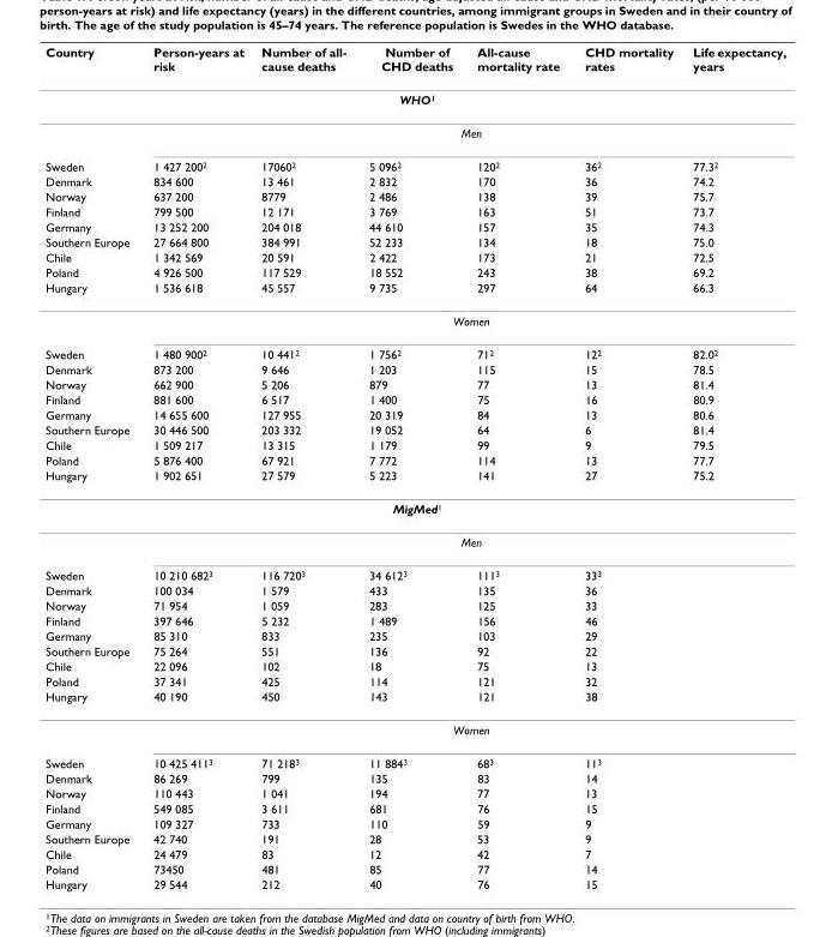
<table><thead><tr><td>Country</td><td>Person-years at risk</td><td>Number of all- cause deaths</td><td>Number of CHD deaths</td><td>All-cause mortality rate</td><td>CHD mortality rates</td><td>Life expectancy, years</td></tr></thead><tbody><tr><td colspan="7">WHO1</td></tr><tr><td></td><td colspan="6">Men</td></tr><tr><td>Sweden</td><td>1 427 2002</td><td>170602</td><td>5 0962</td><td>1202</td><td>362</td><td>77.32</td></tr><tr><td>Denmark</td><td>834 600</td><td>13 461</td><td>2 832</td><td>170</td><td>36</td><td>74.2</td></tr><tr><td>Norway</td><td>637 200</td><td>8779</td><td>2 486</td><td>138</td><td>39</td><td>75.7</td></tr><tr><td>Finland</td><td>799 500</td><td>12 171</td><td>3 769</td><td>163</td><td>51</td><td>73.7</td></tr><tr><td>Germany</td><td>13 252 200</td><td>204 018</td><td>44 610</td><td>157</td><td>35</td><td>74.3</td></tr><tr><td>Southern Europe</td><td>27 664 800</td><td>384 991</td><td>52 233</td><td>134</td><td>18</td><td>75.0</td></tr><tr><td>Chile</td><td>1 342 569</td><td>20 591</td><td>2 422</td><td>173</td><td>21</td><td>72.5</td></tr><tr><td>Poland</td><td>4 926 500</td><td>117 529</td><td>18 552</td><td>243</td><td>38</td><td>69.2</td></tr><tr><td rowspan="2">Hungary</td><td>1 536 618</td><td>45 557</td><td>9 735</td><td>297</td><td>64</td><td>66.3</td></tr><tr><td colspan="6">Women</td></tr><tr><td>Sweden</td><td>1 480 9002</td><td>10 4412</td><td>1 7562</td><td>712</td><td>122</td><td>82.02</td></tr><tr><td>Denmark</td><td>873 200</td><td>9 646</td><td>1 203</td><td>115</td><td>15</td><td>78.5</td></tr><tr><td>Norway</td><td>662 900</td><td>5 206</td><td>879</td><td>77</td><td>13</td><td>81.4</td></tr><tr><td>Finland</td><td>881 600</td><td>6 517</td><td>1 400</td><td>75</td><td>16</td><td>80.9</td></tr><tr><td>Germany</td><td>14 655 600</td><td>127 955</td><td>20 319</td><td>84</td><td>13</td><td>80.6</td></tr><tr><td>Southern Europe</td><td>30 446 500</td><td>203 332</td><td>19 052</td><td>64</td><td>6</td><td>81.4</td></tr><tr><td>Chile</td><td>1 509 217</td><td>13 315</td><td>1 179</td><td>99</td><td>9</td><td>79.5</td></tr><tr><td>Poland</td><td>5 876 400</td><td>67 921</td><td>7 772</td><td>114</td><td>13</td><td>77.7</td></tr><tr><td>Hungary</td><td>1 902 651</td><td>27 579</td><td>5 223</td><td>141</td><td>27</td><td>75.2</td></tr><tr><td colspan="7">MigMed1</td></tr><tr><td></td><td colspan="6">Men</td></tr><tr><td>Sweden</td><td>10 210 6823</td><td>116 7203</td><td>34 6123</td><td>1113</td><td>333</td><td></td></tr><tr><td>Denmark</td><td>100 034</td><td>1 579</td><td>433</td><td>135</td><td>36</td><td></td></tr><tr><td>Norway</td><td>71 954</td><td>1 059</td><td>283</td><td>125</td><td>33</td><td></td></tr><tr><td>Finland</td><td>397 646</td><td>5 232</td><td>1 489</td><td>156</td><td>46</td><td></td></tr><tr><td>Germany</td><td>85 310</td><td>833</td><td>235</td><td>103</td><td>29</td><td></td></tr><tr><td>Southern Europe</td><td>75 264</td><td>551</td><td>136</td><td>92</td><td>22</td><td></td></tr><tr><td>Chile</td><td>22 096</td><td>102</td><td>18</td><td>75</td><td>13</td><td></td></tr><tr><td>Poland</td><td>37 341</td><td>425</td><td>114</td><td>121</td><td>32</td><td></td></tr><tr><td rowspan="2">Hungary</td><td>40 190</td><td>450</td><td>143</td><td>121</td><td>38</td><td></td></tr><tr><td colspan="6">Women</td></tr><tr><td>Sweden</td><td>10 425 4113</td><td>71 2183</td><td>11 8843</td><td>683</td><td>113</td><td></td></tr><tr><td>Denmark</td><td>86 269</td><td>799</td><td>135</td><td>83</td><td>14</td><td></td></tr><tr><td>Norway</td><td>110 443</td><td>1 041</td><td>194</td><td>77</td><td>13</td><td></td></tr><tr><td>Finland</td><td>549 085</td><td>3 611</td><td>681</td><td>76</td><td>15</td><td></td></tr><tr><td>Germany</td><td>109 327</td><td>733</td><td>110</td><td>59</td><td>9</td><td></td></tr><tr><td>Southern Europe</td><td>42 740</td><td>191</td><td>28</td><td>53</td><td>9</td><td></td></tr><tr><td>Chile</td><td>24 479</td><td>83</td><td>12</td><td>42</td><td>7</td><td></td></tr><tr><td>Poland</td><td>73450</td><td>481</td><td>85</td><td>77</td><td>14</td><td></td></tr><tr><td>Hungary</td><td>29 544</td><td>212</td><td>40</td><td>76</td><td>15</td><td></td></tr></tbody></table>